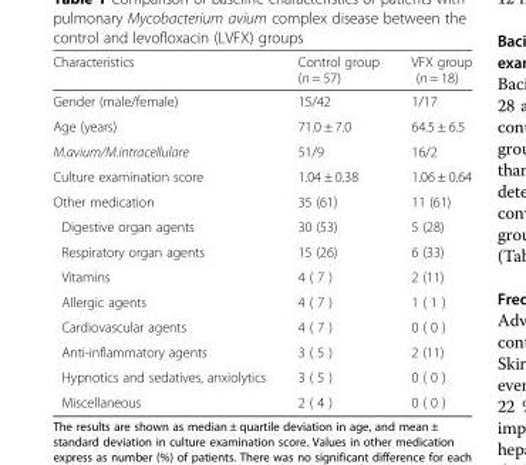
<table><thead><tr><td>Characteristics</td><td>Control group (n = 57)</td><td>VFX group (n = 18)</td></tr></thead><tbody><tr><td>Gender (male/female)</td><td>15/42</td><td>1/17</td></tr><tr><td>Age (years)</td><td>71.0 ± 7.0</td><td>64.5 ± 6.5</td></tr><tr><td>M.avium/M.intracellulare</td><td>51/9</td><td>16/2</td></tr><tr><td>Culture examination score</td><td>1.04 ± 0.38</td><td>1.06 ± 0.64</td></tr><tr><td>Other medication</td><td>35 (61)</td><td>11 (61)</td></tr><tr><td>Digestive organ agents</td><td>30 (53)</td><td>5 (28)</td></tr><tr><td>Respiratory organ agents</td><td>15 (26)</td><td>6 (33)</td></tr><tr><td>Vitamins</td><td>4 ( 7 )</td><td>2 (11)</td></tr><tr><td>Allergic agents</td><td>4 ( 7 )</td><td>1 ( 1 )</td></tr><tr><td>Cardiovascular agents</td><td>4 ( 7 )</td><td>0 ( 0 )</td></tr><tr><td>Anti-inflammatory agents</td><td>3 ( 5 )</td><td>2 (11)</td></tr><tr><td>Hypnotics and sedatives, anxiolytics</td><td>3 ( 5 )</td><td>0 ( 0 )</td></tr><tr><td>Miscellaneous</td><td>2 ( 4 )</td><td>0 ( 0 )</td></tr></tbody></table>